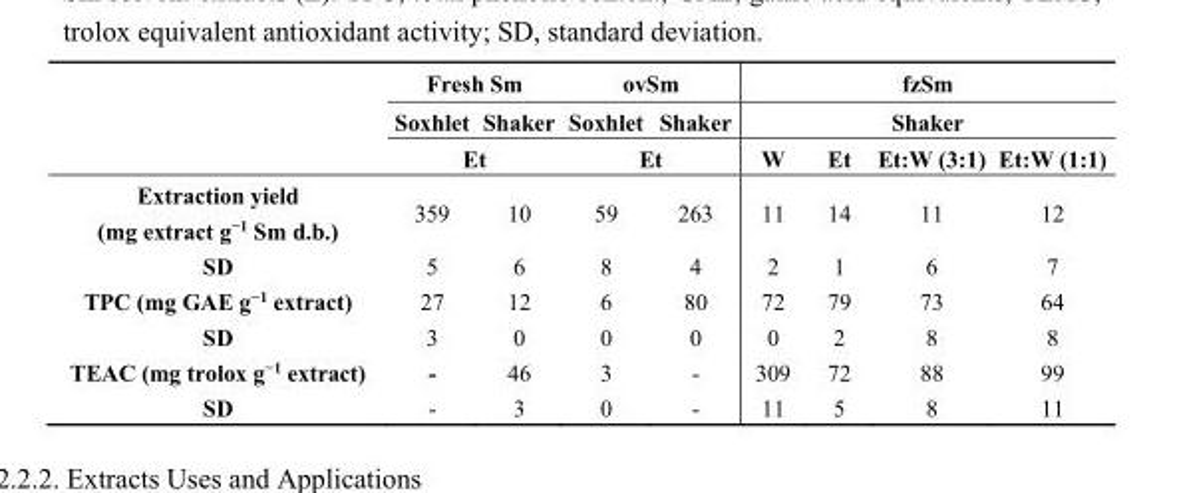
<table><thead><tr><td rowspan="3"></td><td colspan="2">Fresh Sm</td><td colspan="2">ovSm</td><td rowspan="2" colspan="4">fzSm Shaker</td></tr><tr><td>Soxhlet</td><td>Shaker</td><td>Soxhlet</td><td>Shaker</td></tr><tr><td colspan="2">Et</td><td colspan="2">Et</td><td>W</td><td>Et</td><td>Et:W (3:1)</td><td>Et:W (1:1)</td></tr></thead><tbody><tr><td>Extraction yield (mg extract g<sup>−1</sup> Sm d.b.)</td><td>359</td><td>10</td><td>59</td><td>263</td><td>11</td><td>14</td><td>11</td><td>12</td></tr><tr><td>SD</td><td>5</td><td>6</td><td>8</td><td>4</td><td>2</td><td>1</td><td>6</td><td>7</td></tr><tr><td>TPC (mg GAE g<sup>−1</sup> extract)</td><td>27</td><td>12</td><td>6</td><td>80</td><td>72</td><td>79</td><td>73</td><td>64</td></tr><tr><td>SD</td><td>3</td><td>0</td><td>0</td><td>0</td><td>0</td><td>2</td><td>8</td><td>8</td></tr><tr><td>TEAC (mg trolox g<sup>−1</sup> extract)</td><td>-</td><td>46</td><td>3</td><td>-</td><td>309</td><td>72</td><td>88</td><td>99</td></tr><tr><td>SD</td><td>-</td><td>3</td><td>0</td><td>-</td><td>11</td><td>5</td><td>8</td><td>11</td></tr></tbody></table>